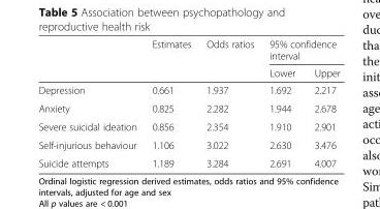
<table><thead><tr><td rowspan="2"></td><td rowspan="2">Estimates</td><td rowspan="2">Odds ratios</td><td colspan="2">95% confidence interval</td></tr><tr><td>Lower</td><td>Upper</td></tr></thead><tbody><tr><td>Depression</td><td>0.661</td><td>1.937</td><td>1.692</td><td>2.217</td></tr><tr><td>Anxiety</td><td>0.825</td><td>2.282</td><td>1.944</td><td>2.678</td></tr><tr><td>Severe suicidal ideation</td><td>0.856</td><td>2.354</td><td>1.910</td><td>2.901</td></tr><tr><td>Self-injurious behaviour</td><td>1.106</td><td>3.022</td><td>2.630</td><td>3.476</td></tr><tr><td>Suicide attempts</td><td>1.189</td><td>3.284</td><td>2.691</td><td>4.007</td></tr></tbody></table>